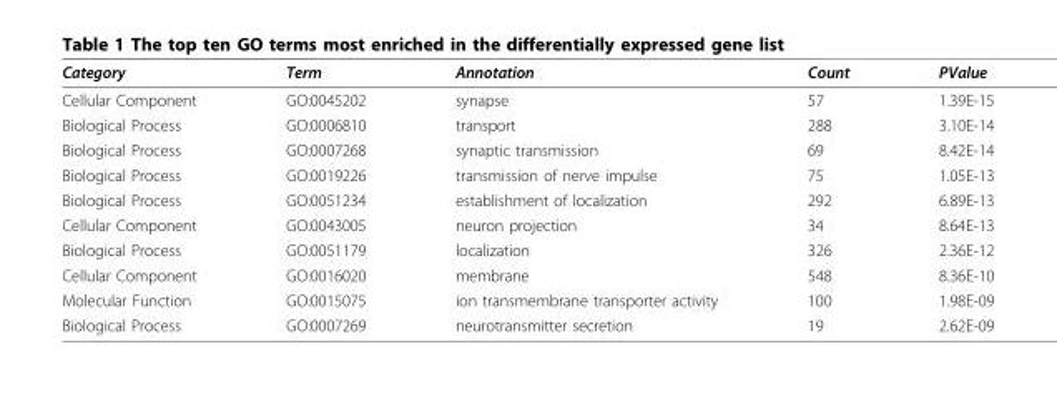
<table><thead><tr><td>Category</td><td>Term</td><td>Annotation</td><td>Count</td><td>PValue</td></tr></thead><tbody><tr><td>Cellular Component</td><td>GO:0045202</td><td>synapse</td><td>57</td><td>1.39E-15</td></tr><tr><td>Biological Process</td><td>GO:0006810</td><td>transport</td><td>288</td><td>3.10E-14</td></tr><tr><td>Biological Process</td><td>GO:0007268</td><td>synaptic transmission</td><td>69</td><td>8.42E-14</td></tr><tr><td>Biological Process</td><td>GO:0019226</td><td>transmission of nerve impulse</td><td>75</td><td>1.05E-13</td></tr><tr><td>Biological Process</td><td>GO:0051234</td><td>establishment of localization</td><td>292</td><td>6.89E-13</td></tr><tr><td>Cellular Component</td><td>GO:0043005</td><td>neuron projection</td><td>34</td><td>8.64E-13</td></tr><tr><td>Biological Process</td><td>GO:0051179</td><td>localization</td><td>326</td><td>2.36E-12</td></tr><tr><td>Cellular Component</td><td>GO:0016020</td><td>membrane</td><td>548</td><td>8.36E-10</td></tr><tr><td>Molecular Function</td><td>GO:0015075</td><td>ion transmembrane transporter activity</td><td>100</td><td>1.98E-09</td></tr><tr><td>Biological Process</td><td>GO:0007269</td><td>neurotransmitter secretion</td><td>19</td><td>2.62E-09</td></tr></tbody></table>